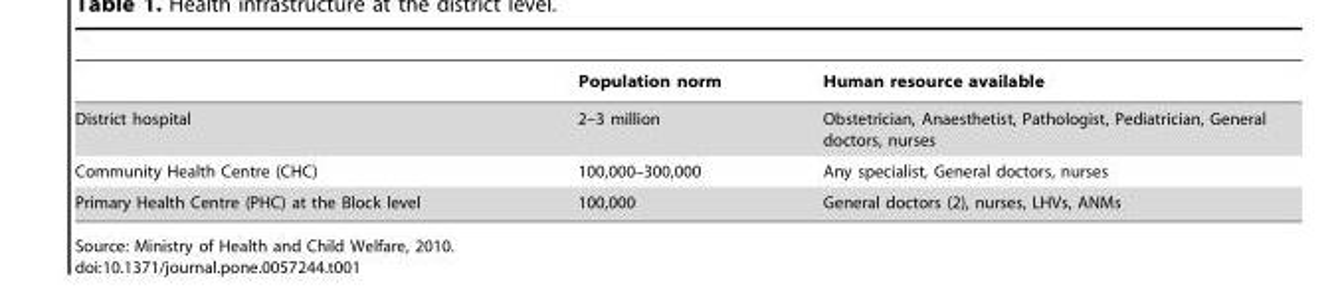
<table><thead><tr><td></td><td>Population norm</td><td>Human resource available</td></tr></thead><tbody><tr><td>District hospital</td><td>2–3 million</td><td>Obstetrician, Anaesthetist, Pathologist, Pediatrician, General doctors, nurses</td></tr><tr><td>Community Health Centre (CHC)</td><td>100,000–300,000</td><td>Any specialist, General doctors, nurses</td></tr><tr><td>Primary Health Centre (PHC) at the Block level</td><td>100,000</td><td>General doctors (2), nurses, LHVs, ANMs</td></tr></tbody></table>